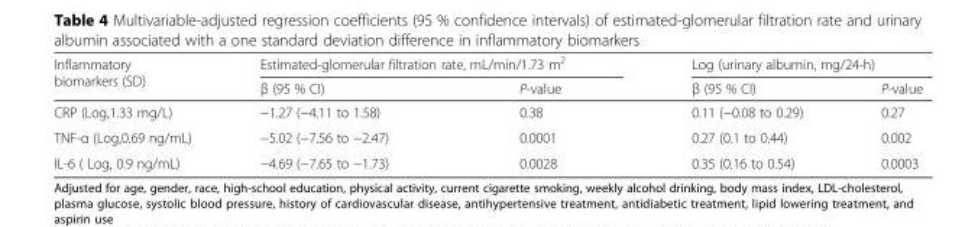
<table><thead><tr><td rowspan="2">Inflammatory biomarkers (SD)</td><td colspan="2">Estimated-glomerular filtration rate, mL/min/1.73 m<sup>2</sup></td><td colspan="2">Log (urinary albumin, mg/24-h)</td></tr><tr><td>β (95 % CI)</td><td>P-value</td><td>β (95 % CI)</td><td>P-value</td></tr></thead><tbody><tr><td>CRP (Log,1.33 mg/L)</td><td>−1.27 (−4.11 to 1.58)</td><td>0.38</td><td>0.11 (−0.08 to 0.29)</td><td>0.27</td></tr><tr><td>TNF-α (Log,0.69 ng/mL)</td><td>−5.02 (−7.56 to −2.47)</td><td>0.0001</td><td>0.27 (0.1 to 0.44)</td><td>0.002</td></tr><tr><td>IL-6 ( Log, 0.9 ng/mL)</td><td>−4.69 (−7.65 to −1.73)</td><td>0.0028</td><td>0.35 (0.16 to 0.54)</td><td>0.0003</td></tr></tbody></table>